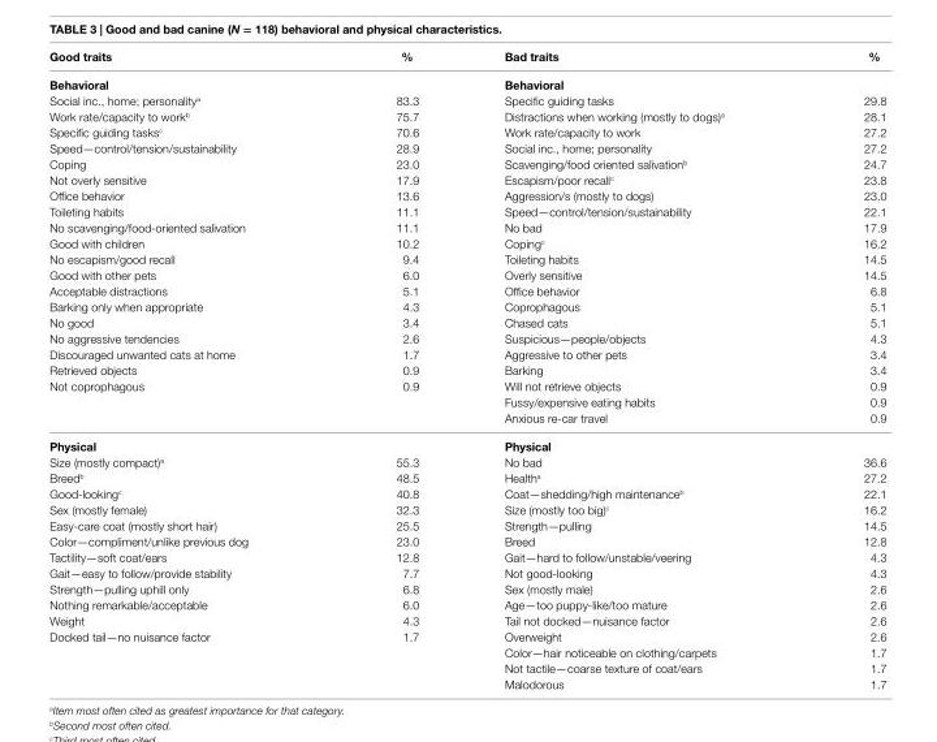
<table><thead><tr><td>good traits</td><td>%</td><td>bad traits</td><td>%</td></tr></thead><tbody><tr><td>behavioral</td><td></td><td>behavioral</td><td></td></tr><tr><td>Social inc., home; personality<sup>a</sup></td><td>83.3</td><td>Specific guiding tasks</td><td>29.8</td></tr><tr><td>Work rate/capacity to work<sup>b</sup></td><td>75.7</td><td>Distractions when working (mostly to dogs)<sup>a</sup></td><td>28.1</td></tr><tr><td>Specific guiding tasks<sup>c</sup></td><td>70.6</td><td>Work rate/capacity to work</td><td>27.2</td></tr><tr><td>Speed—control/tension/sustainability</td><td>28.9</td><td>Social inc., home; personality</td><td>27.2</td></tr><tr><td>Coping</td><td>23.0</td><td>Scavenging/food oriented salivation<sup>b</sup></td><td>24.7</td></tr><tr><td>Not overly sensitive</td><td>17.9</td><td>Escapism/poor recall<sup>c</sup></td><td>23.8</td></tr><tr><td>Office behavior</td><td>13.6</td><td>Aggression/s (mostly to dogs)</td><td>23.0</td></tr><tr><td>Toileting habits</td><td>11.1</td><td>Speed—control/tension/sustainability</td><td>22.1</td></tr><tr><td>No scavenging/food-oriented salivation</td><td>11.1</td><td>No bad</td><td>17.9</td></tr><tr><td>Good with children</td><td>10.2</td><td>Coping<sup>c</sup></td><td>16.2</td></tr><tr><td>No escapism/good recall</td><td>9.4</td><td>Toileting habits</td><td>14.5</td></tr><tr><td>Good with other pets</td><td>6.0</td><td>Overly sensitive</td><td>14.5</td></tr><tr><td>Acceptable distractions</td><td>5.1</td><td>Office behavior</td><td>6.8</td></tr><tr><td>Barking only when appropriate</td><td>4.3</td><td>Coprophagous</td><td>5.1</td></tr><tr><td>No good</td><td>3.4</td><td>Chased cats</td><td>5.1</td></tr><tr><td>No aggressive tendencies</td><td>2.6</td><td>Suspicious—people/objects</td><td>4.3</td></tr><tr><td>Discouraged unwanted cats at home</td><td>1.7</td><td>Aggressive to other pets</td><td>3.4</td></tr><tr><td>Retrieved objects</td><td>0.9</td><td>Barking</td><td>3.4</td></tr><tr><td rowspan="3">Not coprophagous</td><td>0.9</td><td>Will not retrieve objects</td><td>0.9</td></tr><tr><td></td><td>Fussy/expensive eating habits</td><td>0.9</td></tr><tr><td></td><td>Anxious re-car travel</td><td>0.9</td></tr><tr><td>Physical</td><td></td><td>Physical</td><td></td></tr><tr><td>Size (mostly compact)<sup>a</sup></td><td>55.3</td><td>No bad</td><td>36.6</td></tr><tr><td>Breed<sup>b</sup></td><td>48.5</td><td>Health<sup>a</sup></td><td>27.2</td></tr><tr><td>Good-looking<sup>c</sup></td><td>40.8</td><td>Coat—shedding/high maintenance<sup>b</sup></td><td>22.1</td></tr><tr><td>Sex (mostly female)</td><td>32.3</td><td>Size (mostly too big)<sup>c</sup></td><td>16.2</td></tr><tr><td>Easy-care coat (mostly short hair)</td><td>25.5</td><td>Strength—pulling</td><td>14.5</td></tr><tr><td>Color—compliment/unlike previous dog</td><td>23.0</td><td>Breed</td><td>12.8</td></tr><tr><td>Tactility—soft coat/ears</td><td>12.8</td><td>Gait—hard to follow/unstable/veering</td><td>4.3</td></tr><tr><td>Gait—easy to follow/provide stability</td><td>7.7</td><td>Not good-looking</td><td>4.3</td></tr><tr><td>Strength—pulling uphill only</td><td>6.8</td><td>Sex (mostly male)</td><td>2.6</td></tr><tr><td>Nothing remarkable/acceptable</td><td>6.0</td><td>Age—too puppy-like/too mature</td><td>2.6</td></tr><tr><td>Weight</td><td>4.3</td><td>Tail not docked—nuisance factor</td><td>2.6</td></tr><tr><td rowspan="4">Docked tail—no nuisance factor</td><td>1.7</td><td>Overweight</td><td>2.6</td></tr><tr><td></td><td>Color—hair noticeable on clothing/carpets</td><td>1.7</td></tr><tr><td></td><td>Not tactile—coarse texture of coat/ears</td><td>1.7</td></tr><tr><td></td><td>Malodorous</td><td>1.7</td></tr></tbody></table>